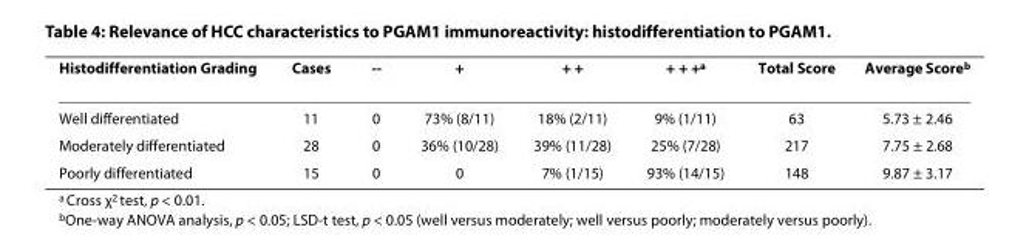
<table><thead><tr><td>Histodifferentiation Grading</td><td>Cases</td><td>--</td><td>+</td><td>+ +</td><td>+ + +<sup>a</sup></td><td>Total Score</td><td>Average Score<sup>b</sup></td></tr></thead><tbody><tr><td>Well differentiated</td><td>11</td><td>0</td><td>73% (8/11)</td><td>18% (2/11)</td><td>9% (1/11)</td><td>63</td><td>5.73 ± 2.46</td></tr><tr><td>Moderately differentiated</td><td>28</td><td>0</td><td>36% (10/28)</td><td>39% (11/28)</td><td>25% (7/28)</td><td>217</td><td>7.75 ± 2.68</td></tr><tr><td>Poorly differentiated</td><td>15</td><td>0</td><td>0</td><td>7% (1/15)</td><td>93% (14/15)</td><td>148</td><td>9.87 ± 3.17</td></tr></tbody></table>